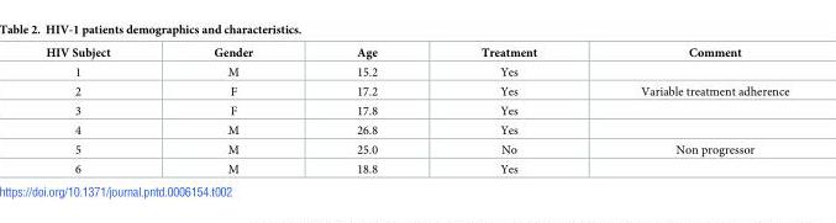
<table><thead><tr><td>HIV Subject</td><td>Gender</td><td>Age</td><td>Treatment</td><td>Comment</td></tr></thead><tbody><tr><td>1</td><td>M</td><td>15.2</td><td>Yes</td><td></td></tr><tr><td>2</td><td>F</td><td>17.2</td><td>Yes</td><td>Variable treatment adherence</td></tr><tr><td>3</td><td>F</td><td>17.8</td><td>Yes</td><td></td></tr><tr><td>4</td><td>M</td><td>26.8</td><td>Yes</td><td></td></tr><tr><td>5</td><td>M</td><td>25.0</td><td>No</td><td>Non progressor</td></tr><tr><td>6</td><td>M</td><td>18.8</td><td>Yes</td><td></td></tr></tbody></table>